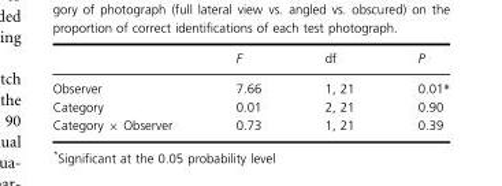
<table><thead><tr><td></td><td>F</td><td>df</td><td>P</td></tr></thead><tbody><tr><td>Observer</td><td>7.66</td><td>1, 21</td><td>0.01*</td></tr><tr><td>Category</td><td>0.01</td><td>2, 21</td><td>0.90</td></tr><tr><td>Category × Observer</td><td>0.73</td><td>1, 21</td><td>0.39</td></tr></tbody></table>